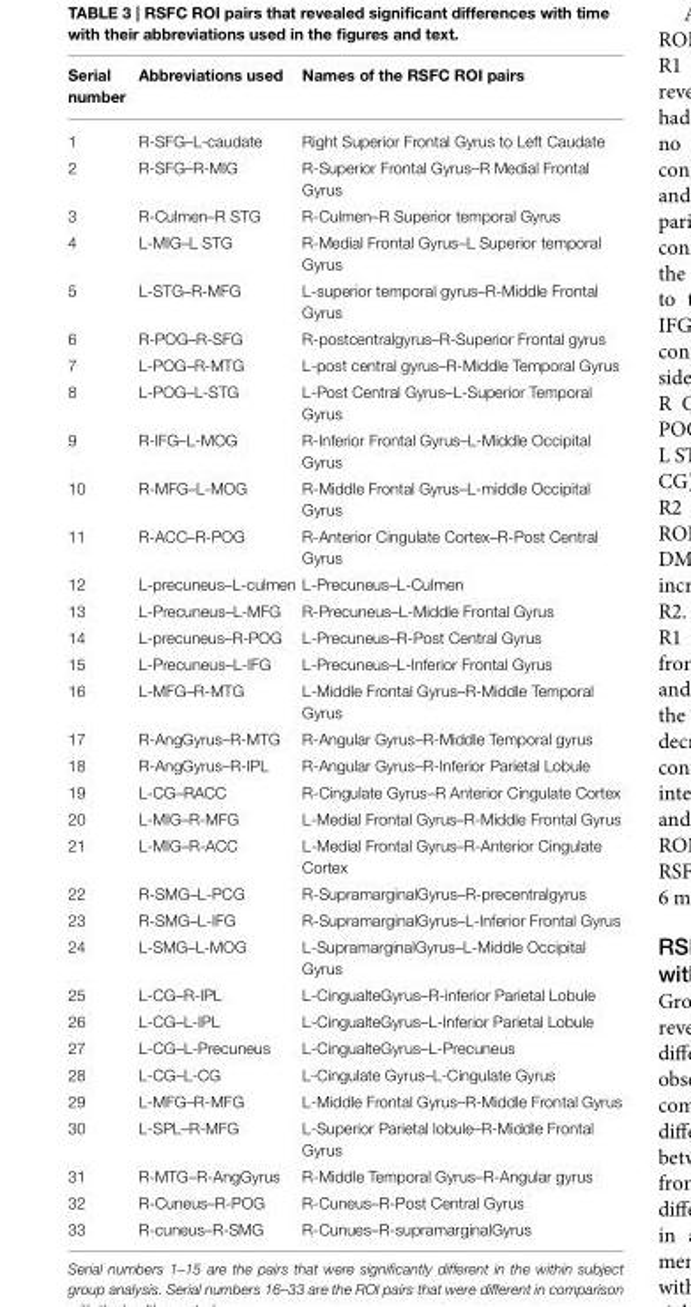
<table><thead><tr><td>Serial number</td><td>Abbreviations used</td><td>Names of the RSFC ROI pairs</td></tr></thead><tbody><tr><td>1</td><td>R-SFG–L-caudate</td><td>Right Superior Frontal Gyrus to Left Caudate</td></tr><tr><td>2</td><td>R-SFG–R-MIG</td><td>R-Superior Frontal Gyrus–R Medial Frontal Gyrus</td></tr><tr><td>3</td><td>R-Culmen–R STG</td><td>R-Culmen–R Superior temporal Gyrus</td></tr><tr><td>4</td><td>L-MIG–L STG</td><td>R-Medial Frontal Gyrus–L Superior temporal Gyrus</td></tr><tr><td>5</td><td>L-STG–R-MFG</td><td>L-superior temporal gyrus–R-Middle Frontal Gyrus</td></tr><tr><td>6</td><td>R-POG–R-SFG</td><td>R-postcentralgyrus–R-Superior Frontal gyrus</td></tr><tr><td>7</td><td>L-POG–R-MTG</td><td>L-post central gyrus–R-Middle Temporal Gyrus</td></tr><tr><td>8</td><td>L-POG–L-STG</td><td>L-Post Central Gyrus–L-Superior Temporal Gyrus</td></tr><tr><td>9</td><td>R-IFG–L-MOG</td><td>R-Inferior Frontal Gyrus–L-Middle Occipital Gyrus</td></tr><tr><td>10</td><td>R-MFG–L-MOG</td><td>R-Middle Frontal Gyrus–L-middle Occipital Gyrus</td></tr><tr><td>11</td><td>R-ACC–R-POG</td><td>R-Anterior Cingulate Cortex–R-Post Central Gyrus</td></tr><tr><td>12</td><td>L-precuneus–L-culmen</td><td>L-Precuneus–L-Culmen</td></tr><tr><td>13</td><td>L-Precuneus–L-MFG</td><td>R-Precuneus–L-Middle Frontal Gyrus</td></tr><tr><td>14</td><td>L-precuneus–R-POG</td><td>L-Precuneus–R-Post Central Gyrus</td></tr><tr><td>15</td><td>L-Precuneus–L-IFG</td><td>L-Precuneus–L-Inferior Frontal Gyrus</td></tr><tr><td>16</td><td>L-MFG–R-MTG</td><td>L-Middle Frontal Gyrus–R-Middle Temporal Gyrus</td></tr><tr><td>17</td><td>R-AngGyrus–R-MTG</td><td>R-Angular Gyrus–R-Middle Temporal gyrus</td></tr><tr><td>18</td><td>R-AngGyrus–R-IPL</td><td>R-Angular Gyrus–R-Inferior Parietal Lobule</td></tr><tr><td>19</td><td>L-CG–RACC</td><td>R-Cingulate Gyrus–R Anterior Cingulate Cortex</td></tr><tr><td>20</td><td>L-MIG–R-MFG</td><td>L-Medial Frontal Gyrus–R-Middle Frontal Gyrus</td></tr><tr><td>21</td><td>L-MIG–R-ACC</td><td>L-Medial Frontal Gyrus–R-Anterior Cingulate Cortex</td></tr><tr><td>22</td><td>R-SMG–L-PCG</td><td>R-SupramarginalGyrus–R-precentralgyrus</td></tr><tr><td>23</td><td>R-SMG–L-IFG</td><td>R-SupramarginalGyrus–L-Inferior Frontal Gyrus</td></tr><tr><td>24</td><td>L-SMG–L-MOG</td><td>L-SupramarginalGyrus–L-Middle Occipital Gyrus</td></tr><tr><td>25</td><td>L-CG–R-IPL</td><td>L-CingualteGyrus–R-inferior Parietal Lobule</td></tr><tr><td>26</td><td>L-CG–L-IPL</td><td>L-CingualteGyrus–L-Inferior Parietal Lobule</td></tr><tr><td>27</td><td>L-CG–L-Precuneus</td><td>L-CingualteGyrus–L-Precuneus</td></tr><tr><td>28</td><td>L-CG–L-CG</td><td>L-Cingulate Gyrus–L-Cingulate Gyrus</td></tr><tr><td>29</td><td>L-MFG–R-MFG</td><td>L-Middle Frontal Gyrus–R-Middle Frontal Gyrus</td></tr><tr><td>30</td><td>L-SPL–R-MFG</td><td>L-Superior Parietal lobule–R-Middle Frontal Gyrus</td></tr><tr><td>31</td><td>R-MTG–R-AngGyrus</td><td>R-Middle Temporal Gyrus–R-Angular gyrus</td></tr><tr><td>32</td><td>R-Cuneus–R-POG</td><td>R-Cuneus–R-Post Central Gyrus</td></tr><tr><td>33</td><td>R-cuneus–R-SMG</td><td>R-Cunues–R-supramarginalGyrus</td></tr></tbody></table>